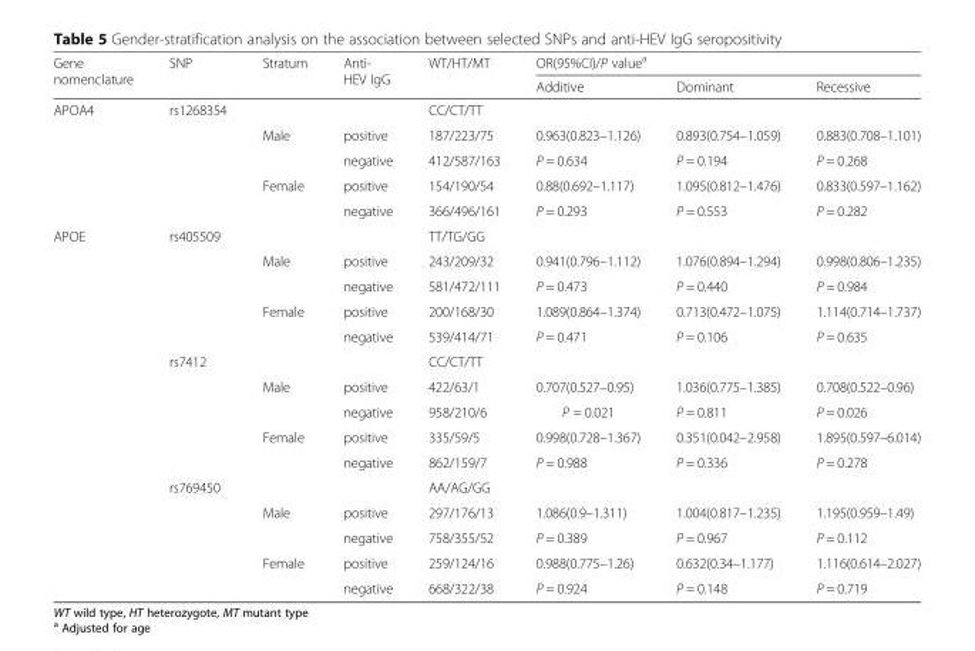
<table><thead><tr><td rowspan="2">Gene nomenclature</td><td rowspan="2">SNP</td><td rowspan="2">Stratum</td><td rowspan="2">Anti- HEV IgG</td><td rowspan="2">WT/HT/MT</td><td colspan="3">OR(95%CI)/P value<sup>a</sup></td></tr><tr><td>Additive</td><td>Dominant</td><td>Recessive</td></tr></thead><tbody><tr><td rowspan="5">APOA4</td><td rowspan="5">rs1268354</td><td></td><td></td><td>CC/CT/TT</td><td></td><td></td><td></td></tr><tr><td>Male</td><td>positive</td><td>187/223/75</td><td>0.963(0.823–1.126)</td><td>0.893(0.754–1.059)</td><td>0.883(0.708–1.101)</td></tr><tr><td></td><td>negative</td><td>412/587/163</td><td>P = 0.634</td><td>P = 0.194</td><td>P = 0.268</td></tr><tr><td rowspan="2">Female</td><td>positive</td><td>154/190/54</td><td>0.88(0.692–1.117)</td><td>1.095(0.812–1.476)</td><td>0.833(0.597–1.162)</td></tr><tr><td>negative</td><td>366/496/161</td><td>P = 0.293</td><td>P = 0.553</td><td>P = 0.282</td></tr><tr><td rowspan="15">APOE</td><td rowspan="5">rs405509</td><td></td><td></td><td>TT/TG/GG</td><td></td><td></td><td></td></tr><tr><td>Male</td><td>positive</td><td>243/209/32</td><td>0.941(0.796–1.112)</td><td>1.076(0.894–1.294)</td><td>0.998(0.806–1.235)</td></tr><tr><td></td><td>negative</td><td>581/472/111</td><td>P = 0.473</td><td>P = 0.440</td><td>P = 0.984</td></tr><tr><td rowspan="2">Female</td><td>positive</td><td>200/168/30</td><td>1.089(0.864–1.374)</td><td>0.713(0.472–1.075)</td><td>1.114(0.714–1.737)</td></tr><tr><td>negative</td><td>539/414/71</td><td>P = 0.471</td><td>P = 0.106</td><td>P = 0.635</td></tr><tr><td rowspan="5">rs7412</td><td></td><td></td><td>CC/CT/TT</td><td></td><td></td><td></td></tr><tr><td rowspan="2">Male</td><td>positive</td><td>422/63/1</td><td>0.707(0.527–0.95)</td><td>1.036(0.775–1.385)</td><td>0.708(0.522–0.96)</td></tr><tr><td>negative</td><td>958/210/6</td><td>P = 0.021</td><td>P = 0.811</td><td>P = 0.026</td></tr><tr><td rowspan="2">Female</td><td>positive</td><td>335/59/5</td><td>0.998(0.728–1.367)</td><td>0.351(0.042–2.958)</td><td>1.895(0.597–6.014)</td></tr><tr><td>negative</td><td>862/159/7</td><td>P = 0.988</td><td>P = 0.336</td><td>P = 0.278</td></tr><tr><td rowspan="5">rs769450</td><td></td><td></td><td>AA/AG/GG</td><td></td><td></td><td></td></tr><tr><td rowspan="2">Male</td><td>positive</td><td>297/176/13</td><td>1.086(0.9–1.311)</td><td>1.004(0.817–1.235)</td><td>1.195(0.959–1.49)</td></tr><tr><td>negative</td><td>758/355/52</td><td>P = 0.389</td><td>P = 0.967</td><td>P = 0.112</td></tr><tr><td rowspan="2">Female</td><td>positive</td><td>259/124/16</td><td>0.988(0.775–1.26)</td><td>0.632(0.34–1.177)</td><td>1.116(0.614–2.027)</td></tr><tr><td>negative</td><td>668/322/38</td><td>P = 0.924</td><td>P = 0.148</td><td>P = 0.719</td></tr></tbody></table>